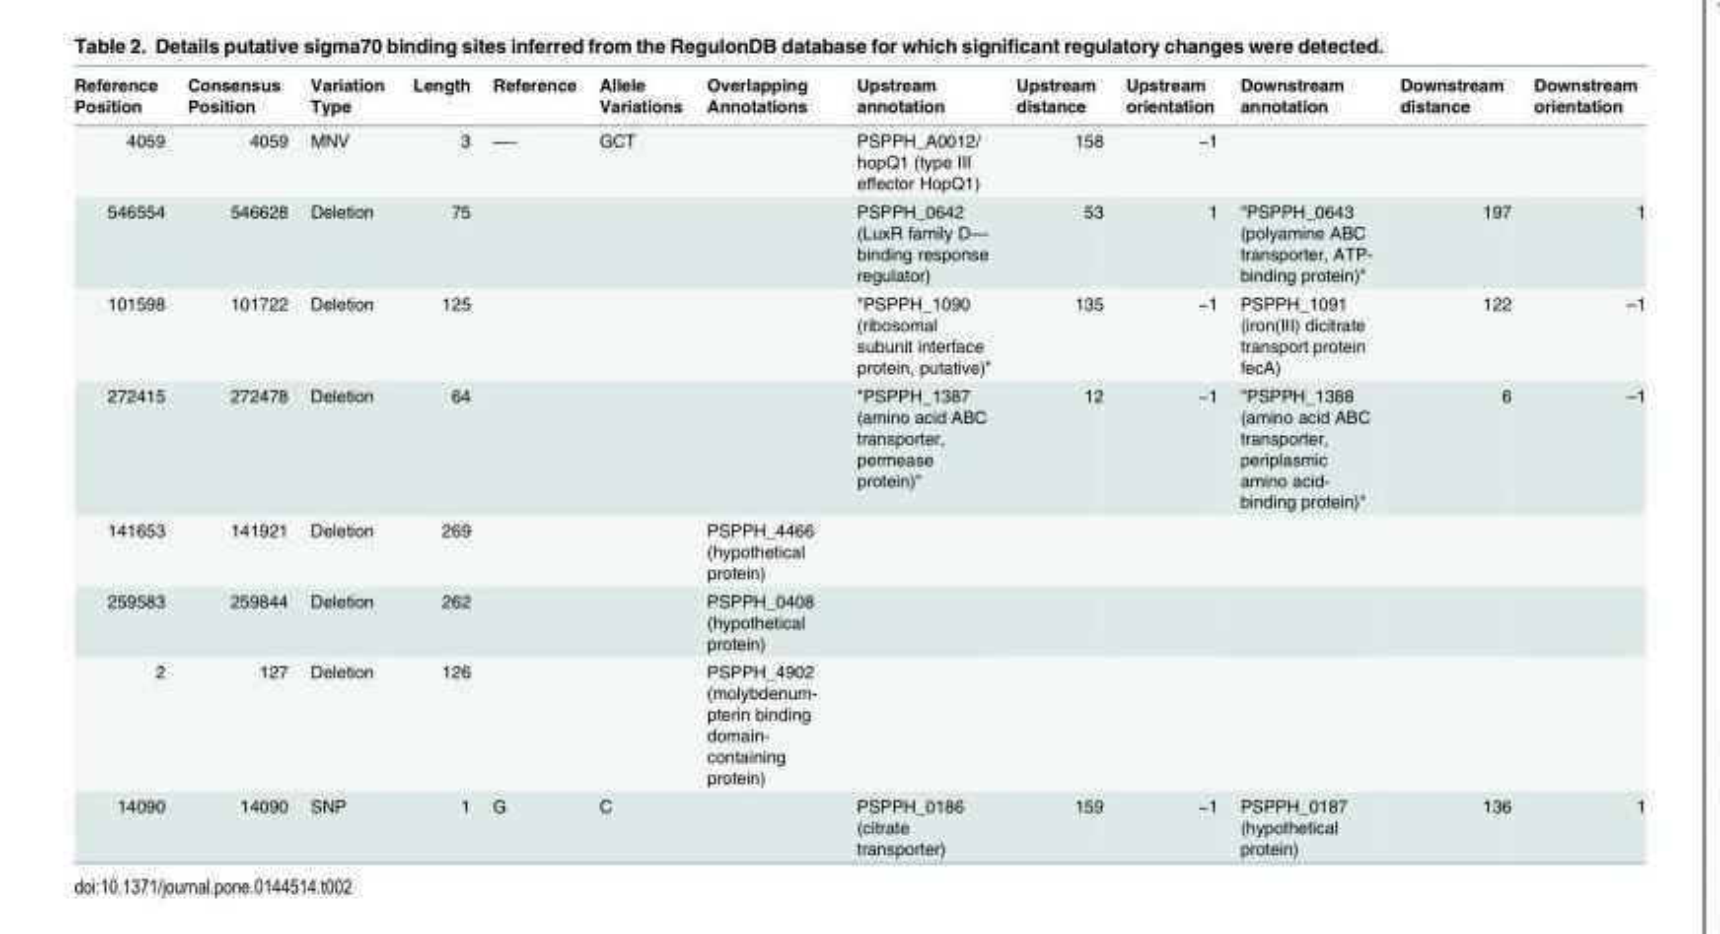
<table><thead><tr><td>Reference Position</td><td>Consensus Position</td><td>Variation Type</td><td>Length</td><td>Reference</td><td>Allele Variations</td><td>Overlapping Annotations</td><td>Upstream annotation</td><td>Upstream distance</td><td>Upstream orientation</td><td>Downstream annotation</td><td>Downstream distance</td><td>Downstream orientation</td></tr></thead><tbody><tr><td>4059</td><td>4059</td><td>MNV</td><td>3</td><td>—-</td><td>GCT</td><td></td><td>PSPPH_A0012/ hopQ1 (type III effector HopQ1)</td><td>158</td><td>−1</td><td></td><td></td><td></td></tr><tr><td>546554</td><td>546628</td><td>Deletion</td><td>75</td><td></td><td></td><td></td><td>PSPPH_0642 (LuxR family D— binding response regulator)</td><td>53</td><td>1</td><td>&quot;PSPPH_0643 (polyamine ABC transporter, ATP- binding protein)&quot;</td><td>197</td><td>1</td></tr><tr><td>101598</td><td>101722</td><td>Deletion</td><td>125</td><td></td><td></td><td></td><td>&quot;PSPPH_1090 (ribosomal subunit interface protein, putative)&quot;</td><td>135</td><td>−1</td><td>PSPPH_1091 (iron(III) dicitrate transport protein fecA)</td><td>122</td><td>–1</td></tr><tr><td>272415</td><td>272478</td><td>Deletion</td><td>64</td><td></td><td></td><td></td><td>&quot;PSPPH_1387 (amino acid ABC transporter, permease protein)&quot;</td><td>12</td><td>−1</td><td>&quot;PSPPH_1388 (amino acid ABC transporter, periplasmic amino acid- binding protein)&quot;</td><td>6</td><td>–1</td></tr><tr><td>141653</td><td>141921</td><td>Deletion</td><td>269</td><td></td><td></td><td>PSPPH_4466 (hypothetical protein)</td><td></td><td></td><td></td><td></td><td></td><td></td></tr><tr><td>259583</td><td>259844</td><td>Deletion</td><td>262</td><td></td><td></td><td>PSPPH_0408 (hypothetical protein)</td><td></td><td></td><td></td><td></td><td></td><td></td></tr><tr><td>2</td><td>127</td><td>Deletion</td><td>126</td><td></td><td></td><td>PSPPH_4902 (molybdenum- pterin binding domain- containing protein)</td><td></td><td></td><td></td><td></td><td></td><td></td></tr><tr><td>14090</td><td>14090</td><td>SNP</td><td>1</td><td>G</td><td>C</td><td></td><td>PSPPH_0186 (citrate transporter)</td><td>159</td><td>−1</td><td>PSPPH_0187 (hypothetical protein)</td><td>136</td><td>1</td></tr></tbody></table>